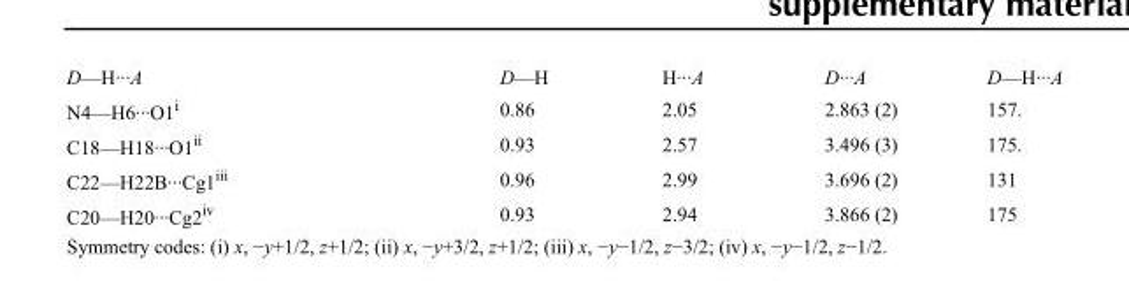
<table><tbody><tr><td>D—H···A</td><td>D—H</td><td>H···A</td><td>D···A</td><td>D—H···A</td></tr><tr><td>N4—H6···O1<sup>i</sup></td><td>0.86</td><td>2.05</td><td>2.863 (2)</td><td>157.</td></tr><tr><td>C18—H18···O1<sup>ii</sup></td><td>0.93</td><td>2.57</td><td>3.496 (3)</td><td>175.</td></tr><tr><td>C22—H22B···Cg1<sup>iii</sup></td><td>0.96</td><td>2.99</td><td>3.696 (2)</td><td>131</td></tr><tr><td>C20—H20···Cg2<sup>iv</sup></td><td>0.93</td><td>2.94</td><td>3.866 (2)</td><td>175</td></tr></tbody></table>